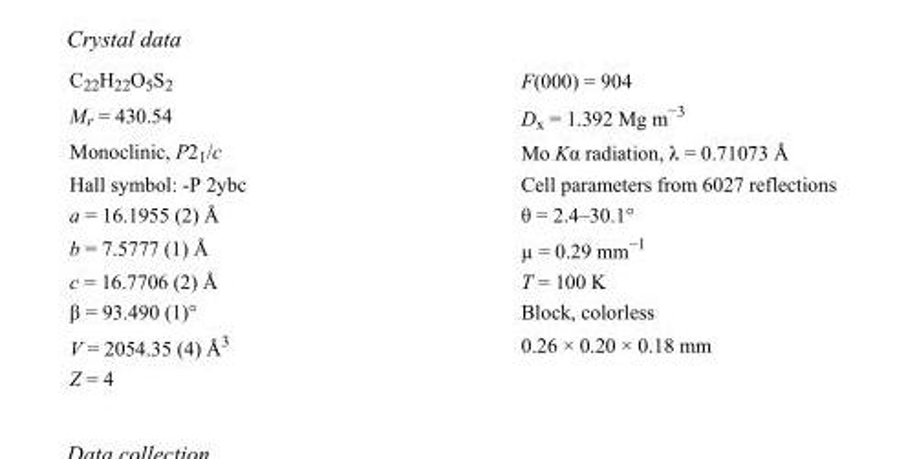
<table><tbody><tr><td>C<sub>22</sub>H<sub>22</sub>O<sub>5</sub>S<sub>2</sub></td><td>F(000) = 904</td></tr><tr><td>M<sub>r</sub> = 430.54</td><td>D<sub>x</sub> = 1.392 Mg m<sup>−3</sup></td></tr><tr><td>Monoclinic, P2<sub>1</sub>/c</td><td>Mo Kα radiation, λ = 0.71073 Å</td></tr><tr><td>Hall symbol: -P 2ybc</td><td>Cell parameters from 6027 reflections</td></tr><tr><td>a = 16.1955 (2) Å</td><td>θ = 2.4–30.1°</td></tr><tr><td>b = 7.5777 (1) Å</td><td>µ = 0.29 mm<sup>−1</sup></td></tr><tr><td>c = 16.7706 (2) Å</td><td>T = 100 K</td></tr><tr><td>β = 93.490 (1)°</td><td>Block, colorless</td></tr><tr><td>V = 2054.35 (4) Å<sup>3</sup></td><td>0.26 × 0.20 × 0.18 mm</td></tr><tr><td>Z = 4</td><td></td></tr></tbody></table>